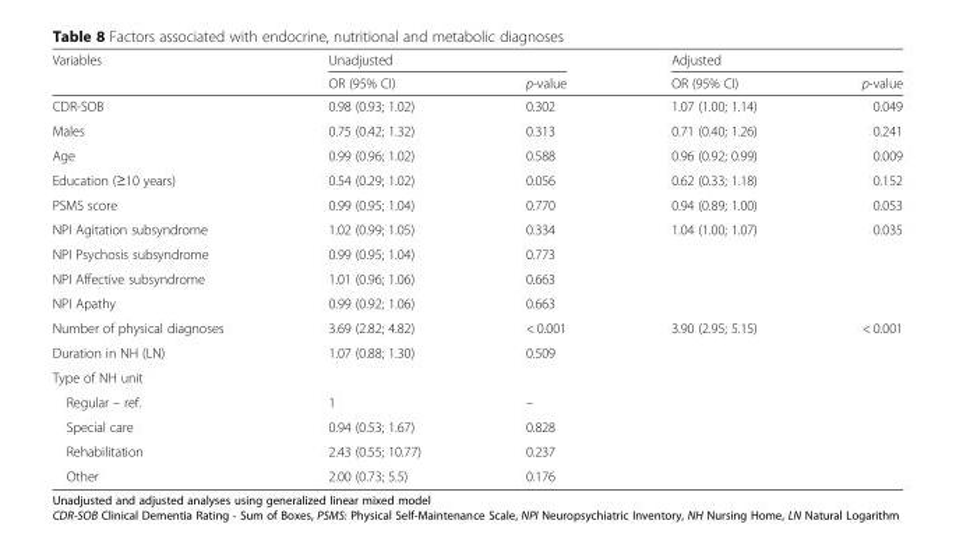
<table><thead><tr><td rowspan="2">Variables</td><td colspan="2">Unadjusted</td><td colspan="2">Adjusted</td></tr><tr><td>OR (95% CI)</td><td>p-value</td><td>OR (95% CI)</td><td>p-value</td></tr></thead><tbody><tr><td>CDR-SOB</td><td>0.98 (0.93; 1.02)</td><td>0.302</td><td>1.07 (1.00; 1.14)</td><td>0.049</td></tr><tr><td>Males</td><td>0.75 (0.42; 1.32)</td><td>0.313</td><td>0.71 (0.40; 1.26)</td><td>0.241</td></tr><tr><td>Age</td><td>0.99 (0.96; 1.02)</td><td>0.588</td><td>0.96 (0.92; 0.99)</td><td>0.009</td></tr><tr><td>Education (≥10 years)</td><td>0.54 (0.29; 1.02)</td><td>0.056</td><td>0.62 (0.33; 1.18)</td><td>0.152</td></tr><tr><td>PSMS score</td><td>0.99 (0.95; 1.04)</td><td>0.770</td><td>0.94 (0.89; 1.00)</td><td>0.053</td></tr><tr><td>NPI Agitation subsyndrome</td><td>1.02 (0.99; 1.05)</td><td>0.334</td><td>1.04 (1.00; 1.07)</td><td>0.035</td></tr><tr><td>NPI Psychosis subsyndrome</td><td>0.99 (0.95; 1.04)</td><td>0.773</td><td></td><td></td></tr><tr><td>NPI Affective subsyndrome</td><td>1.01 (0.96; 1.06)</td><td>0.663</td><td></td><td></td></tr><tr><td>NPI Apathy</td><td>0.99 (0.92; 1.06)</td><td>0.663</td><td></td><td></td></tr><tr><td>Number of physical diagnoses</td><td>3.69 (2.82; 4.82)</td><td>&lt; 0.001</td><td>3.90 (2.95; 5.15)</td><td>&lt; 0.001</td></tr><tr><td>Duration in NH (LN)</td><td>1.07 (0.88; 1.30)</td><td>0.509</td><td></td><td></td></tr><tr><td colspan="5">Type of NH unit</td></tr><tr><td>Regular – ref.</td><td>1</td><td>–</td><td></td><td></td></tr><tr><td>Special care</td><td>0.94 (0.53; 1.67)</td><td>0.828</td><td></td><td></td></tr><tr><td>Rehabilitation</td><td>2.43 (0.55; 10.77)</td><td>0.237</td><td></td><td></td></tr><tr><td>Other</td><td>2.00 (0.73; 5.5)</td><td>0.176</td><td></td><td></td></tr></tbody></table>